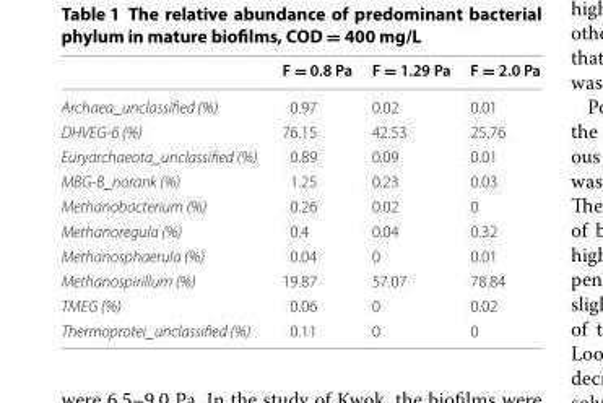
<table><thead><tr><td></td><td>F = 0.8 Pa</td><td>F = 1.29 Pa</td><td>F = 2.0 Pa</td></tr></thead><tbody><tr><td>Archaea_unclassified (%)</td><td>0.97</td><td>0.02</td><td>0.01</td></tr><tr><td>DHVEG-6 (%)</td><td>76.15</td><td>42.53</td><td>25.76</td></tr><tr><td>Euryarchaeota_unclassified (%)</td><td>0.89</td><td>0.09</td><td>0.01</td></tr><tr><td>MBG-B_norank (%)</td><td>1.25</td><td>0.23</td><td>0.03</td></tr><tr><td>Methanobacterium (%)</td><td>0.26</td><td>0.02</td><td>0</td></tr><tr><td>Methanoregula (%)</td><td>0.4</td><td>0.04</td><td>0.32</td></tr><tr><td>Methanosphaerula (%)</td><td>0.04</td><td>0</td><td>0.01</td></tr><tr><td>Methanospirillum (%)</td><td>19.87</td><td>57.07</td><td>78.84</td></tr><tr><td>TMEG (%)</td><td>0.06</td><td>0</td><td>0.02</td></tr><tr><td>Thermoprotei_unclassified (%)</td><td>0.11</td><td>0</td><td>0</td></tr></tbody></table>